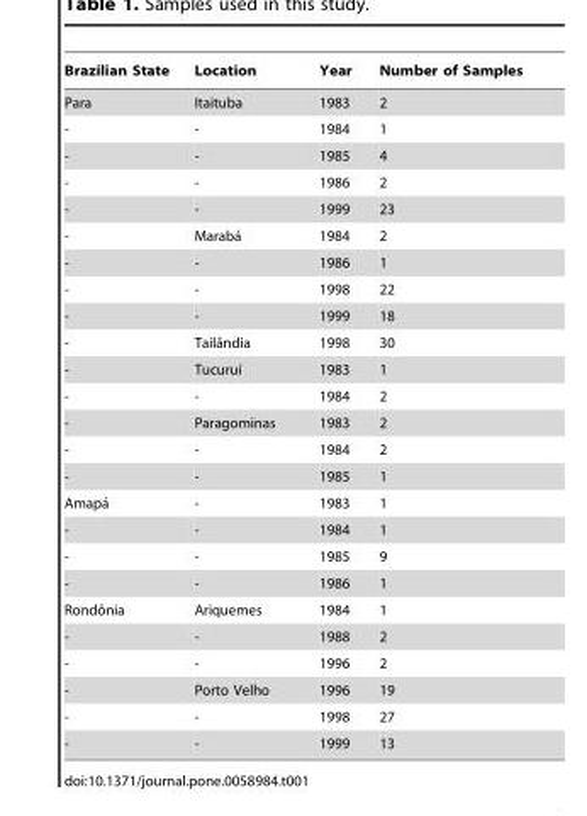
<table><thead><tr><td>Brazilian State</td><td>Location</td><td>Year</td><td>Number of Samples</td></tr></thead><tbody><tr><td>Para</td><td>Itaituba</td><td>1983</td><td>2</td></tr><tr><td>-</td><td>-</td><td>1984</td><td>1</td></tr><tr><td>-</td><td>-</td><td>1985</td><td>4</td></tr><tr><td>-</td><td>-</td><td>1986</td><td>2</td></tr><tr><td>-</td><td>-</td><td>1999</td><td>23</td></tr><tr><td>-</td><td>Maraba´</td><td>1984</td><td>2</td></tr><tr><td>-</td><td>-</td><td>1986</td><td>1</td></tr><tr><td>-</td><td>-</td><td>1998</td><td>22</td></tr><tr><td>-</td><td>-</td><td>1999</td><td>18</td></tr><tr><td>-</td><td>Tailaˆndia</td><td>1998</td><td>30</td></tr><tr><td>-</td><td>Tucuruı´</td><td>1983</td><td>1</td></tr><tr><td>-</td><td>-</td><td>1984</td><td>2</td></tr><tr><td>-</td><td>Paragominas</td><td>1983</td><td>2</td></tr><tr><td>-</td><td>-</td><td>1984</td><td>2</td></tr><tr><td>-</td><td>-</td><td>1985</td><td>1</td></tr><tr><td>Amapa´</td><td>-</td><td>1983</td><td>1</td></tr><tr><td>-</td><td>-</td><td>1984</td><td>1</td></tr><tr><td>-</td><td>-</td><td>1985</td><td>9</td></tr><tr><td>-</td><td>-</td><td>1986</td><td>1</td></tr><tr><td>Rondoˆnia</td><td>Ariquemes</td><td>1984</td><td>1</td></tr><tr><td>-</td><td>-</td><td>1988</td><td>2</td></tr><tr><td>-</td><td>-</td><td>1996</td><td>2</td></tr><tr><td>-</td><td>Porto Velho</td><td>1996</td><td>19</td></tr><tr><td>-</td><td>-</td><td>1998</td><td>27</td></tr><tr><td>-</td><td>-</td><td>1999</td><td>13</td></tr></tbody></table>